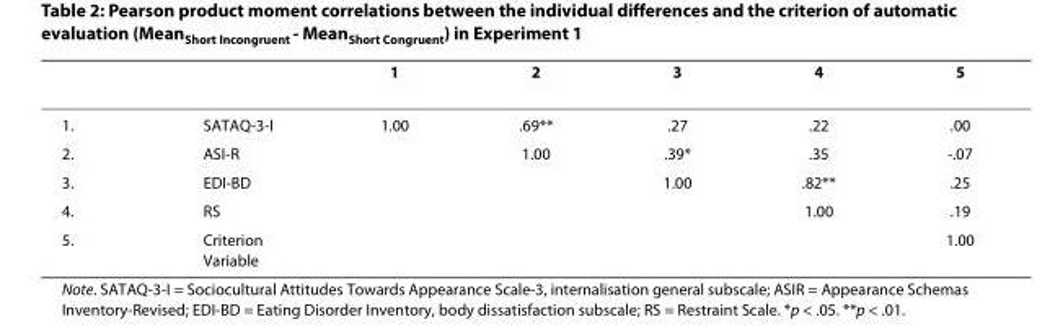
<table><thead><tr><td></td><td></td><td>1</td><td>2</td><td>3</td><td>4</td><td>5</td></tr></thead><tbody><tr><td>1.</td><td>SATAQ-3-I</td><td>1.00</td><td>.69**</td><td>.27</td><td>.22</td><td>.00</td></tr><tr><td>2.</td><td>ASI-R</td><td></td><td>1.00</td><td>.39*</td><td>.35</td><td>-.07</td></tr><tr><td>3.</td><td>EDI-BD</td><td></td><td></td><td>1.00</td><td>.82**</td><td>.25</td></tr><tr><td>4.</td><td>RS</td><td></td><td></td><td></td><td>1.00</td><td>.19</td></tr><tr><td>5.</td><td>Criterion Variable</td><td></td><td></td><td></td><td></td><td>1.00</td></tr></tbody></table>